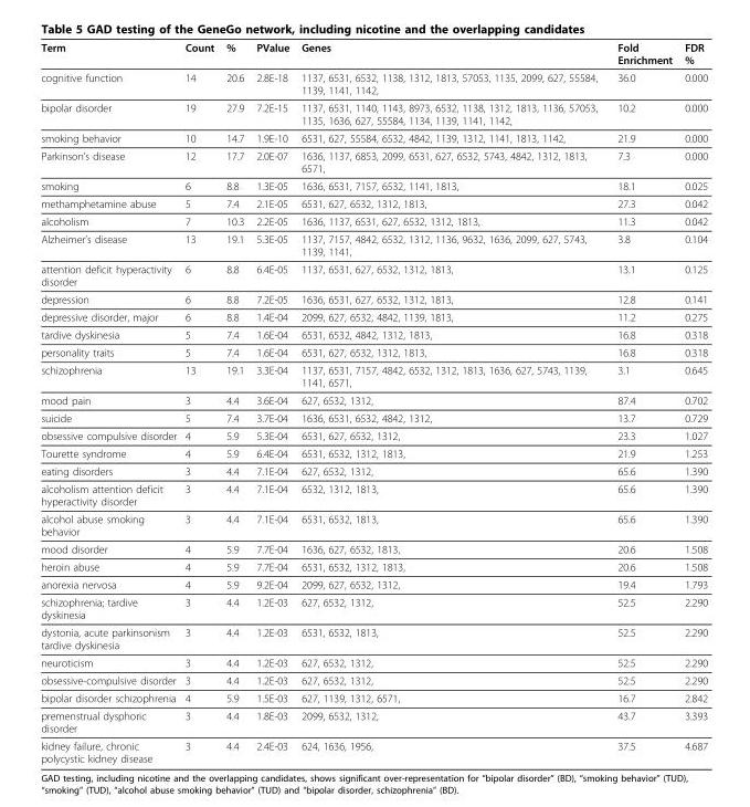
<table><thead><tr><td>Term</td><td>Count</td><td>%</td><td>PValue</td><td>Genes</td><td>Fold Enrichment</td><td>FDR %</td></tr></thead><tbody><tr><td>cognitive function</td><td>14</td><td>20.6</td><td>2.8E-18</td><td>1137, 6531, 6532, 1138, 1312, 1813, 57053, 1135, 2099, 627, 55584, 1139, 1141, 1142,</td><td>36.0</td><td>0.000</td></tr><tr><td>bipolar disorder</td><td>19</td><td>27.9</td><td>7.2E-15</td><td>1137, 6531, 1140, 1143, 8973, 6532, 1138, 1312, 1813, 1136, 57053, 1135, 1636, 627, 55584, 1134, 1139, 1141, 1142,</td><td>10.2</td><td>0.000</td></tr><tr><td>smoking behavior</td><td>10</td><td>14.7</td><td>1.9E-10</td><td>6531, 627, 55584, 6532, 4842, 1139, 1312, 1141, 1813, 1142,</td><td>21.9</td><td>0.000</td></tr><tr><td>Parkinson’s disease</td><td>12</td><td>17.7</td><td>2.0E-07</td><td>1636, 1137, 6853, 2099, 6531, 627, 6532, 5743, 4842, 1312, 1813, 6571,</td><td>7.3</td><td>0.000</td></tr><tr><td>smoking</td><td>6</td><td>8.8</td><td>1.3E-05</td><td>1636, 6531, 7157, 6532, 1141, 1813,</td><td>18.1</td><td>0.025</td></tr><tr><td>methamphetamine abuse</td><td>5</td><td>7.4</td><td>2.1E-05</td><td>6531, 627, 6532, 1312, 1813,</td><td>27.3</td><td>0.042</td></tr><tr><td>alcoholism</td><td>7</td><td>10.3</td><td>2.2E-05</td><td>1636, 1137, 6531, 627, 6532, 1312, 1813,</td><td>11.3</td><td>0.042</td></tr><tr><td>Alzheimer’s disease</td><td>13</td><td>19.1</td><td>5.3E-05</td><td>1137, 7157, 4842, 6532, 1312, 1136, 9632, 1636, 2099, 627, 5743, 1139, 1141,</td><td>3.8</td><td>0.104</td></tr><tr><td>attention deficit hyperactivity disorder</td><td>6</td><td>8.8</td><td>6.4E-05</td><td>1137, 6531, 627, 6532, 1312, 1813,</td><td>13.1</td><td>0.125</td></tr><tr><td>depression</td><td>6</td><td>8.8</td><td>7.2E-05</td><td>1636, 6531, 627, 6532, 1312, 1813,</td><td>12.8</td><td>0.141</td></tr><tr><td>depressive disorder, major</td><td>6</td><td>8.8</td><td>1.4E-04</td><td>2099, 627, 6532, 4842, 1139, 1813,</td><td>11.2</td><td>0.275</td></tr><tr><td>tardive dyskinesia</td><td>5</td><td>7.4</td><td>1.6E-04</td><td>6531, 6532, 4842, 1312, 1813,</td><td>16.8</td><td>0.318</td></tr><tr><td>personality traits</td><td>5</td><td>7.4</td><td>1.6E-04</td><td>6531, 627, 6532, 1312, 1813,</td><td>16.8</td><td>0.318</td></tr><tr><td>schizophrenia</td><td>13</td><td>19.1</td><td>3.3E-04</td><td>1137, 6531, 7157, 4842, 6532, 1312, 1813, 1636, 627, 5743, 1139, 1141, 6571,</td><td>3.1</td><td>0.645</td></tr><tr><td>mood pain</td><td>3</td><td>4.4</td><td>3.6E-04</td><td>627, 6532, 1312,</td><td>87.4</td><td>0.702</td></tr><tr><td>suicide</td><td>5</td><td>7.4</td><td>3.7E-04</td><td>1636, 6531, 6532, 4842, 1312,</td><td>13.7</td><td>0.729</td></tr><tr><td>obsessive compulsive disorder</td><td>4</td><td>5.9</td><td>5.3E-04</td><td>6531, 627, 6532, 1312,</td><td>23.3</td><td>1.027</td></tr><tr><td>Tourette syndrome</td><td>4</td><td>5.9</td><td>6.4E-04</td><td>6531, 6532, 1312, 1813,</td><td>21.9</td><td>1.253</td></tr><tr><td>eating disorders</td><td>3</td><td>4.4</td><td>7.1E-04</td><td>627, 6532, 1312,</td><td>65.6</td><td>1.390</td></tr><tr><td>alcoholism attention deficit hyperactivity disorder</td><td>3</td><td>4.4</td><td>7.1E-04</td><td>6532, 1312, 1813,</td><td>65.6</td><td>1.390</td></tr><tr><td>alcohol abuse smoking behavior</td><td>3</td><td>4.4</td><td>7.1E-04</td><td>6531, 6532, 1813,</td><td>65.6</td><td>1.390</td></tr><tr><td>mood disorder</td><td>4</td><td>5.9</td><td>7.7E-04</td><td>1636, 627, 6532, 1813,</td><td>20.6</td><td>1.508</td></tr><tr><td>heroin abuse</td><td>4</td><td>5.9</td><td>7.7E-04</td><td>6531, 6532, 1312, 1813,</td><td>20.6</td><td>1.508</td></tr><tr><td>anorexia nervosa</td><td>4</td><td>5.9</td><td>9.2E-04</td><td>2099, 627, 6532, 1312,</td><td>19.4</td><td>1.793</td></tr><tr><td>schizophrenia; tardive dyskinesia</td><td>3</td><td>4.4</td><td>1.2E-03</td><td>627, 6532, 1312,</td><td>52.5</td><td>2.290</td></tr><tr><td>dystonia, acute parkinsonism tardive dyskinesia</td><td>3</td><td>4.4</td><td>1.2E-03</td><td>6531, 6532, 1813,</td><td>52.5</td><td>2.290</td></tr><tr><td>neuroticism</td><td>3</td><td>4.4</td><td>1.2E-03</td><td>627, 6532, 1312,</td><td>52.5</td><td>2.290</td></tr><tr><td>obsessive-compulsive disorder</td><td>3</td><td>4.4</td><td>1.2E-03</td><td>627, 6532, 1312,</td><td>52.5</td><td>2.290</td></tr><tr><td>bipolar disorder schizophrenia</td><td>4</td><td>5.9</td><td>1.5E-03</td><td>627, 1139, 1312, 6571,</td><td>16.7</td><td>2.842</td></tr><tr><td>premenstrual dysphoric disorder</td><td>3</td><td>4.4</td><td>1.8E-03</td><td>2099, 6532, 1312,</td><td>43.7</td><td>3.393</td></tr><tr><td>kidney failure, chronic polycystic kidney disease</td><td>3</td><td>4.4</td><td>2.4E-03</td><td>624, 1636, 1956,</td><td>37.5</td><td>4.687</td></tr></tbody></table>